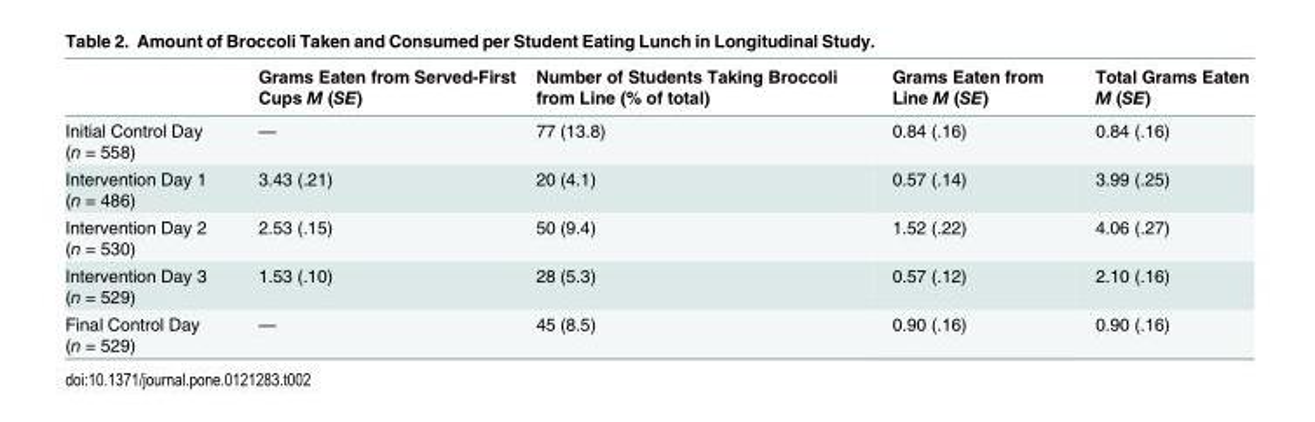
<table><thead><tr><td></td><td>Grams Eaten from Served-First Cups M (SE)</td><td>Number of Students Taking Broccoli from Line (% of total)</td><td>Grams Eaten from Line M (SE)</td><td>Total Grams Eaten M (SE)</td></tr></thead><tbody><tr><td>Initial Control Day (n = 558)</td><td>—</td><td>77 (13.8)</td><td>0.84 (.16)</td><td>0.84 (.16)</td></tr><tr><td>Intervention Day 1 (n = 486)</td><td>3.43 (.21)</td><td>20 (4.1)</td><td>0.57 (.14)</td><td>3.99 (.25)</td></tr><tr><td>Intervention Day 2 (n = 530)</td><td>2.53 (.15)</td><td>50 (9.4)</td><td>1.52 (.22)</td><td>4.06 (.27)</td></tr><tr><td>Intervention Day 3 (n = 529)</td><td>1.53 (.10)</td><td>28 (5.3)</td><td>0.57 (.12)</td><td>2.10 (.16)</td></tr><tr><td>Final Control Day (n = 529)</td><td>—</td><td>45 (8.5)</td><td>0.90 (.16)</td><td>0.90 (.16)</td></tr></tbody></table>